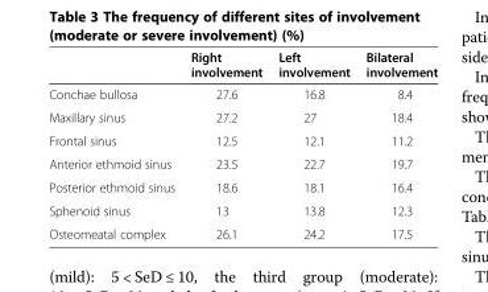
<table><thead><tr><td></td><td>Right involvement</td><td>Left involvement</td><td>Bilateral involvement</td></tr></thead><tbody><tr><td>Conchae bullosa</td><td>27.6</td><td>16.8</td><td>8.4</td></tr><tr><td>Maxillary sinus</td><td>27.2</td><td>27</td><td>18.4</td></tr><tr><td>Frontal sinus</td><td>12.5</td><td>12.1</td><td>11.2</td></tr><tr><td>Anterior ethmoid sinus</td><td>23.5</td><td>22.7</td><td>19.7</td></tr><tr><td>Posterior ethmoid sinus</td><td>18.6</td><td>18.1</td><td>16.4</td></tr><tr><td>Sphenoid sinus</td><td>13</td><td>13.8</td><td>12.3</td></tr><tr><td>Osteomeatal complex</td><td>26.1</td><td>24.2</td><td>17.5</td></tr></tbody></table>